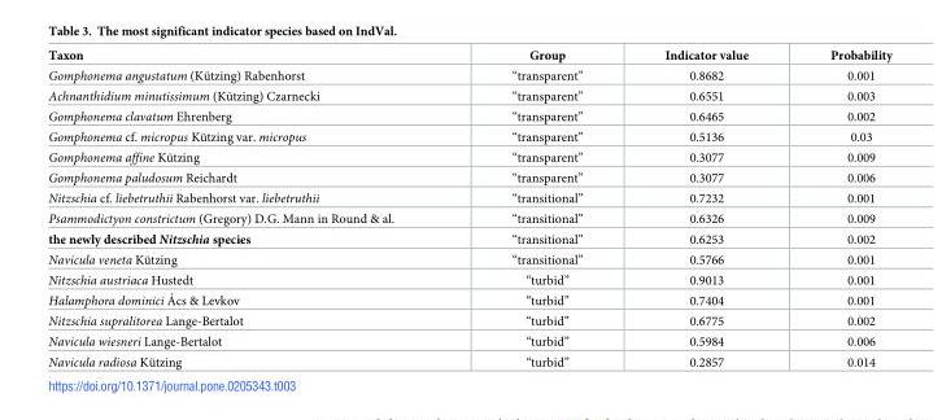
<table><thead><tr><td>Taxon</td><td>Group</td><td>Indicator value</td><td>Probability</td></tr></thead><tbody><tr><td>Gomphonema angustatum (Ku¨tzing) Rabenhorst</td><td>“transparent”</td><td>0.8682</td><td>0.001</td></tr><tr><td>Achnanthidium minutissimum (Ku¨tzing) Czarnecki</td><td>“transparent”</td><td>0.6551</td><td>0.003</td></tr><tr><td>Gomphonema clavatum Ehrenberg</td><td>“transparent”</td><td>0.6465</td><td>0.002</td></tr><tr><td>Gomphonema cf. micropus Ku¨tzing var. micropus</td><td>“transparent”</td><td>0.5136</td><td>0.03</td></tr><tr><td>Gomphonema affine Ku¨tzing</td><td>“transparent”</td><td>0.3077</td><td>0.009</td></tr><tr><td>Gomphonema paludosum Reichardt</td><td>“transparent”</td><td>0.3077</td><td>0.006</td></tr><tr><td>Nitzschia cf. liebetruthii Rabenhorst var. liebetruthii</td><td>“transitional”</td><td>0.7232</td><td>0.001</td></tr><tr><td>Psammodictyon constrictum (Gregory) D.G. Mann in Round &amp; al.</td><td>“transitional”</td><td>0.6326</td><td>0.009</td></tr><tr><td>the newly described Nitzschia species</td><td>“transitional”</td><td>0.6253</td><td>0.002</td></tr><tr><td>Navicula veneta Ku¨tzing</td><td>“transitional”</td><td>0.5766</td><td>0.001</td></tr><tr><td>Nitzschia austriaca Hustedt</td><td>“turbid”</td><td>0.9013</td><td>0.001</td></tr><tr><td>Halamphora dominici A´cs &amp; Levkov</td><td>“turbid”</td><td>0.7404</td><td>0.001</td></tr><tr><td>Nitzschia supralitorea Lange-Bertalot</td><td>“turbid”</td><td>0.6775</td><td>0.002</td></tr><tr><td>Navicula wiesneri Lange-Bertalot</td><td>“turbid”</td><td>0.5984</td><td>0.006</td></tr><tr><td>Navicula radiosa Ku¨tzing</td><td>“turbid”</td><td>0.2857</td><td>0.014</td></tr></tbody></table>